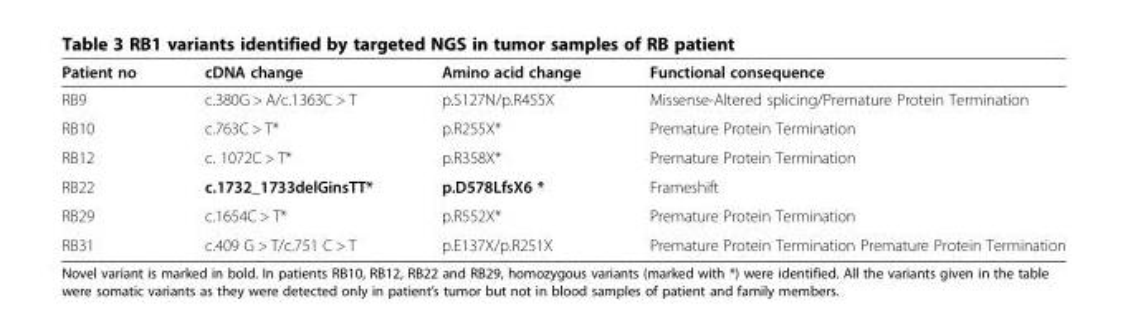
<table><thead><tr><td>Patient no</td><td>cDNA change</td><td>Amino acid change</td><td>Functional consequence</td></tr></thead><tbody><tr><td>RB9</td><td>c.380G &gt; A/c.1363C &gt; T</td><td>p.S127N/p.R455X</td><td>Missense-Altered splicing/Premature Protein Termination</td></tr><tr><td>RB10</td><td>c.763C &gt; T*</td><td>p.R255X*</td><td>Premature Protein Termination</td></tr><tr><td>RB12</td><td>c. 1072C &gt; T*</td><td>p.R358X*</td><td>Premature Protein Termination</td></tr><tr><td>RB22</td><td>c.1732_1733delGinsTT*</td><td>p.D578LfsX6 *</td><td>Frameshift</td></tr><tr><td>RB29</td><td>c.1654C &gt; T*</td><td>p.R552X*</td><td>Premature Protein Termination</td></tr><tr><td>RB31</td><td>c.409 G &gt; T/c.751 C &gt; T</td><td>p.E137X/p.R251X</td><td>Premature Protein Termination Premature Protein Termination</td></tr></tbody></table>